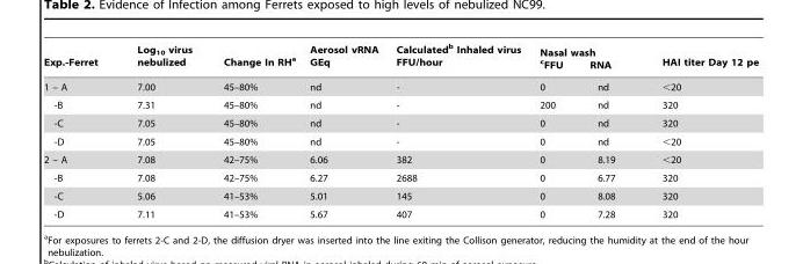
<table><thead><tr><td rowspan="2">Exp.-Ferret 1 – A</td><td rowspan="2">Log<sub>10</sub> virus nebulized 7.00</td><td rowspan="2">Change In RH<sup>a</sup> 45–80%</td><td rowspan="2">Aerosol vRNA GEq nd</td><td rowspan="2">Calculated<sup>b</sup> Inhaled virus FFU/hour -</td><td colspan="2">Nasal wash <sup>c</sup>FFU RNA</td><td rowspan="2">HAI titer Day 12 pe &lt;20</td></tr><tr><td>0</td><td>nd</td></tr></thead><tbody><tr><td>-B</td><td>7.31</td><td>45–80%</td><td>nd</td><td>-</td><td>200</td><td>nd</td><td>320</td></tr><tr><td>-C</td><td>7.05</td><td>45–80%</td><td>nd</td><td>-</td><td>0</td><td>nd</td><td>320</td></tr><tr><td>-D</td><td>7.05</td><td>45–80%</td><td>nd</td><td>-</td><td>0</td><td>nd</td><td>&lt;20</td></tr><tr><td>2 – A</td><td>7.08</td><td>42–75%</td><td>6.06</td><td>382</td><td>0</td><td>8.19</td><td>&lt;20</td></tr><tr><td>-B</td><td>7.08</td><td>42–75%</td><td>6.27</td><td>2688</td><td>0</td><td>6.77</td><td>320</td></tr><tr><td>-C</td><td>5.06</td><td>41–53%</td><td>5.01</td><td>145</td><td>0</td><td>8.08</td><td>320</td></tr><tr><td>-D</td><td>7.11</td><td>41–53%</td><td>5.67</td><td>407</td><td>0</td><td>7.28</td><td>320</td></tr></tbody></table>